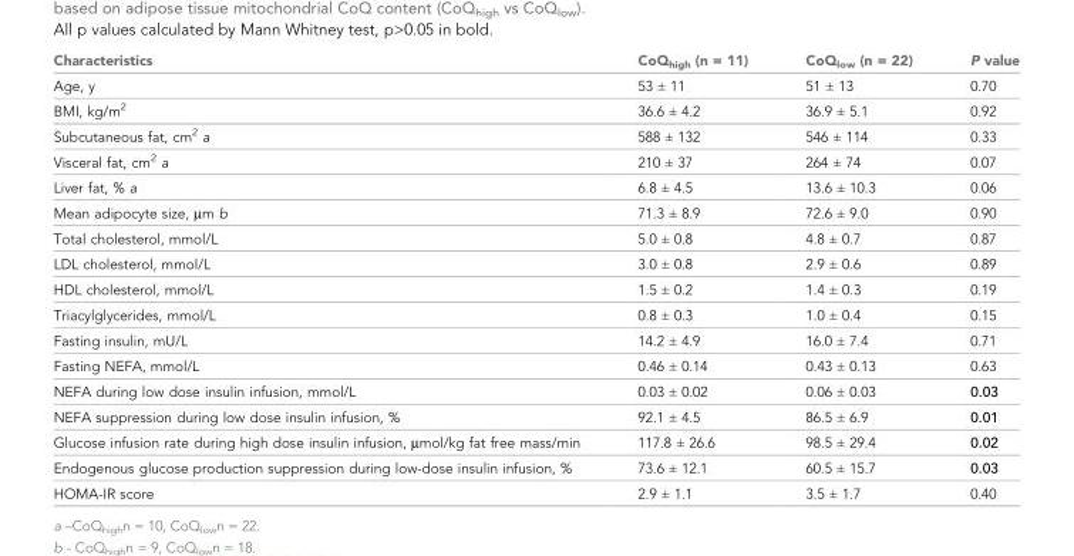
<table><thead><tr><td>Characteristics</td><td>CoQ<sub>high</sub> (n = 11)</td><td>CoQ<sub>low</sub> (n = 22)</td><td>P value</td></tr></thead><tbody><tr><td>Age, y</td><td>53 ± 11</td><td>51 ± 13</td><td>0.70</td></tr><tr><td>BMI, kg/m<sup>2</sup></td><td>36.6 ± 4.2</td><td>36.9 ± 5.1</td><td>0.92</td></tr><tr><td>Subcutaneous fat, cm<sup>2</sup> a</td><td>588 ± 132</td><td>546 ± 114</td><td>0.33</td></tr><tr><td>Visceral fat, cm<sup>2</sup> a</td><td>210 ± 37</td><td>264 ± 74</td><td>0.07</td></tr><tr><td>Liver fat, % a</td><td>6.8 ± 4.5</td><td>13.6 ± 10.3</td><td>0.06</td></tr><tr><td>Mean adipocyte size, μm b</td><td>71.3 ± 8.9</td><td>72.6 ± 9.0</td><td>0.90</td></tr><tr><td>Total cholesterol, mmol/L</td><td>5.0 ± 0.8</td><td>4.8 ± 0.7</td><td>0.87</td></tr><tr><td>LDL cholesterol, mmol/L</td><td>3.0 ± 0.8</td><td>2.9 ± 0.6</td><td>0.89</td></tr><tr><td>HDL cholesterol, mmol/L</td><td>1.5 ± 0.2</td><td>1.4 ± 0.3</td><td>0.19</td></tr><tr><td>Triacylglycerides, mmol/L</td><td>0.8 ± 0.3</td><td>1.0 ± 0.4</td><td>0.15</td></tr><tr><td>Fasting insulin, mU/L</td><td>14.2 ± 4.9</td><td>16.0 ± 7.4</td><td>0.71</td></tr><tr><td>Fasting NEFA, mmol/L</td><td>0.46 ± 0.14</td><td>0.43 ± 0.13</td><td>0.63</td></tr><tr><td>NEFA during low dose insulin infusion, mmol/L</td><td>0.03 ± 0.02</td><td>0.06 ± 0.03</td><td>0.03</td></tr><tr><td>NEFA suppression during low dose insulin infusion, %</td><td>92.1 ± 4.5</td><td>86.5 ± 6.9</td><td>0.01</td></tr><tr><td>Glucose infusion rate during high dose insulin infusion, μmol/kg fat free mass/min</td><td>117.8 ± 26.6</td><td>98.5 ± 29.4</td><td>0.02</td></tr><tr><td>Endogenous glucose production suppression during low-dose insulin infusion, %</td><td>73.6 ± 12.1</td><td>60.5 ± 15.7</td><td>0.03</td></tr><tr><td>HOMA-IR score</td><td>2.9 ± 1.1</td><td>3.5 ± 1.7</td><td>0.40</td></tr></tbody></table>